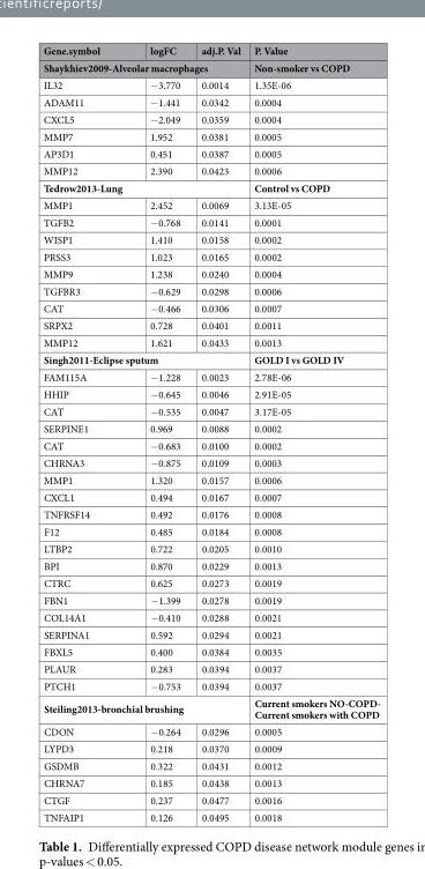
<table><thead><tr><td>Gene.symbol</td><td>logFC</td><td>adj.P. Val</td><td rowspan="2">P. Value Non-smoker vs COPD</td></tr><tr><td colspan="3">Shaykhiev2009-Alveolar macrophages</td></tr></thead><tbody><tr><td>IL32</td><td>−3.770</td><td>0.0014</td><td>1.35E-06</td></tr><tr><td>ADAM11</td><td>−1.441</td><td>0.0342</td><td>0.0004</td></tr><tr><td>CXCL5</td><td>−2.049</td><td>0.0359</td><td>0.0004</td></tr><tr><td>MMP7</td><td>1.952</td><td>0.0381</td><td>0.0005</td></tr><tr><td>AP3D1</td><td>0.451</td><td>0.0387</td><td>0.0005</td></tr><tr><td>MMP12</td><td>2.390</td><td>0.0423</td><td>0.0006</td></tr><tr><td colspan="3">Tedrow2013-Lung</td><td>Control vs COPD</td></tr><tr><td>MMP1</td><td>2.452</td><td>0.0069</td><td>3.13E-05</td></tr><tr><td>TGFB2</td><td>−0.768</td><td>0.0141</td><td>0.0001</td></tr><tr><td>WISP1</td><td>1.410</td><td>0.0158</td><td>0.0002</td></tr><tr><td>PRSS3</td><td>1.023</td><td>0.0165</td><td>0.0002</td></tr><tr><td>MMP9</td><td>1.238</td><td>0.0240</td><td>0.0004</td></tr><tr><td>TGFBR3</td><td>−0.629</td><td>0.0298</td><td>0.0006</td></tr><tr><td>CAT</td><td>−0.466</td><td>0.0306</td><td>0.0007</td></tr><tr><td>SRPX2</td><td>0.728</td><td>0.0401</td><td>0.0011</td></tr><tr><td>MMP12</td><td>1.621</td><td>0.0433</td><td>0.0013</td></tr><tr><td colspan="3">Singh2011-Eclipse sputum</td><td>GOLD I vs GOLD IV</td></tr><tr><td>FAM115A</td><td>−1.228</td><td>0.0023</td><td>2.78E-06</td></tr><tr><td>HHIP</td><td>−0.645</td><td>0.0046</td><td>2.91E-05</td></tr><tr><td>CAT</td><td>−0.535</td><td>0.0047</td><td>3.17E-05</td></tr><tr><td>SERPINE1</td><td>0.969</td><td>0.0088</td><td>0.0002</td></tr><tr><td>CAT</td><td>−0.683</td><td>0.0100</td><td>0.0002</td></tr><tr><td>CHRNA3</td><td>−0.875</td><td>0.0109</td><td>0.0003</td></tr><tr><td>MMP1</td><td>1.320</td><td>0.0157</td><td>0.0006</td></tr><tr><td>CXCL1</td><td>0.494</td><td>0.0167</td><td>0.0007</td></tr><tr><td>TNFRSF14</td><td>0.492</td><td>0.0176</td><td>0.0008</td></tr><tr><td>F12</td><td>0.485</td><td>0.0184</td><td>0.0008</td></tr><tr><td>LTBP2</td><td>0.722</td><td>0.0205</td><td>0.0010</td></tr><tr><td>BPI</td><td>0.870</td><td>0.0229</td><td>0.0013</td></tr><tr><td>CTRC</td><td>0.625</td><td>0.0273</td><td>0.0019</td></tr><tr><td>FBN1</td><td>−1.399</td><td>0.0278</td><td>0.0019</td></tr><tr><td>COL14A1</td><td>−0.410</td><td>0.0288</td><td>0.0021</td></tr><tr><td>SERPINA1</td><td>0.592</td><td>0.0294</td><td>0.0021</td></tr><tr><td>FBXL5</td><td>0.400</td><td>0.0384</td><td>0.0035</td></tr><tr><td>PLAUR</td><td>0.283</td><td>0.0394</td><td>0.0037</td></tr><tr><td>PTCH1</td><td>−0.753</td><td>0.0394</td><td>0.0037</td></tr><tr><td colspan="3">Steiling2013-bronchial brushing</td><td>Current smokers NO-COPD- Current smokers with COPD</td></tr><tr><td>CDON</td><td>−0.264</td><td>0.0296</td><td>0.0005</td></tr><tr><td>LYPD3</td><td>0.218</td><td>0.0370</td><td>0.0009</td></tr><tr><td>GSDMB</td><td>0.322</td><td>0.0431</td><td>0.0012</td></tr><tr><td>CHRNA7</td><td>0.185</td><td>0.0438</td><td>0.0013</td></tr><tr><td>CTGF</td><td>0.237</td><td>0.0477</td><td>0.0016</td></tr><tr><td>TNFAIP1</td><td>0.126</td><td>0.0495</td><td>0.0018</td></tr></tbody></table>